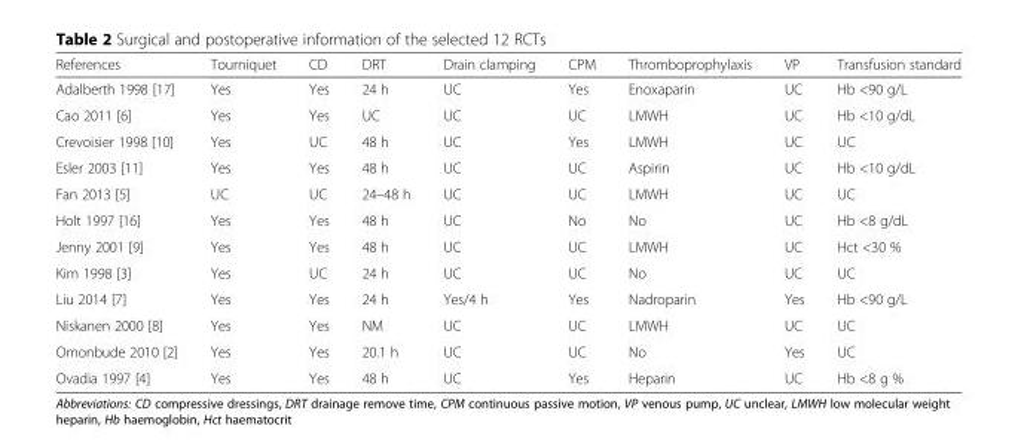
<table><thead><tr><td>References</td><td>Tourniquet</td><td>CD</td><td>DRT</td><td>Drain clamping</td><td>CPM</td><td>Thromboprophylaxis</td><td>VP</td><td>Transfusion standard</td></tr></thead><tbody><tr><td>Adalberth 1998 [17]</td><td>Yes</td><td>Yes</td><td>24 h</td><td>UC</td><td>Yes</td><td>Enoxaparin</td><td>UC</td><td>Hb &lt;90 g/L</td></tr><tr><td>Cao 2011 [6]</td><td>Yes</td><td>Yes</td><td>UC</td><td>UC</td><td>UC</td><td>LMWH</td><td>UC</td><td>Hb &lt;10 g/dL</td></tr><tr><td>Crevoisier 1998 [10]</td><td>Yes</td><td>UC</td><td>48 h</td><td>UC</td><td>Yes</td><td>LMWH</td><td>UC</td><td>UC</td></tr><tr><td>Esler 2003 [11]</td><td>Yes</td><td>Yes</td><td>48 h</td><td>UC</td><td>UC</td><td>Aspirin</td><td>UC</td><td>Hb &lt;10 g/dL</td></tr><tr><td>Fan 2013 [5]</td><td>UC</td><td>UC</td><td>24–48 h</td><td>UC</td><td>UC</td><td>LMWH</td><td>UC</td><td>UC</td></tr><tr><td>Holt 1997 [16]</td><td>Yes</td><td>Yes</td><td>48 h</td><td>UC</td><td>No</td><td>No</td><td>UC</td><td>Hb &lt;8 g/dL</td></tr><tr><td>Jenny 2001 [9]</td><td>Yes</td><td>Yes</td><td>48 h</td><td>UC</td><td>UC</td><td>LMWH</td><td>UC</td><td>Hct &lt;30 %</td></tr><tr><td>Kim 1998 [3]</td><td>Yes</td><td>UC</td><td>24 h</td><td>UC</td><td>UC</td><td>No</td><td>UC</td><td>UC</td></tr><tr><td>Liu 2014 [7]</td><td>Yes</td><td>Yes</td><td>24 h</td><td>Yes/4 h</td><td>Yes</td><td>Nadroparin</td><td>Yes</td><td>Hb &lt;90 g/L</td></tr><tr><td>Niskanen 2000 [8]</td><td>Yes</td><td>Yes</td><td>NM</td><td>UC</td><td>UC</td><td>LMWH</td><td>UC</td><td>UC</td></tr><tr><td>Omonbude 2010 [2]</td><td>Yes</td><td>Yes</td><td>20.1 h</td><td>UC</td><td>UC</td><td>No</td><td>Yes</td><td>UC</td></tr><tr><td>Ovadia 1997 [4]</td><td>Yes</td><td>Yes</td><td>48 h</td><td>UC</td><td>Yes</td><td>Heparin</td><td>UC</td><td>Hb &lt;8 g %</td></tr></tbody></table>